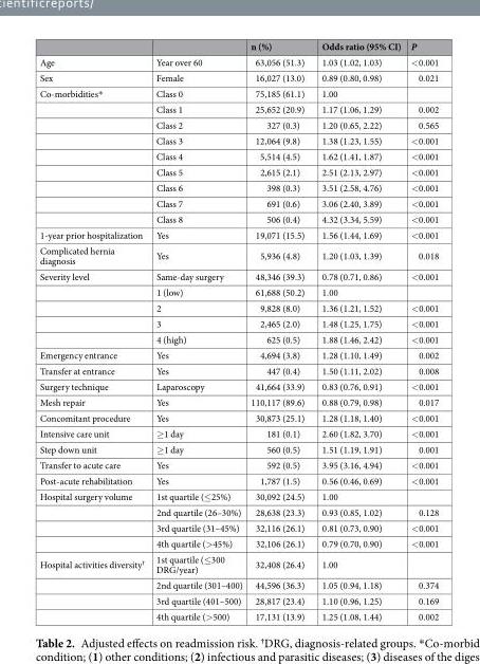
<table><thead><tr><td></td><td></td><td>n (%)</td><td>Odds ratio (95% CI)</td><td>P</td></tr></thead><tbody><tr><td>Age</td><td>Year over 60</td><td>63,056 (51.3)</td><td>1.03 (1.02, 1.03)</td><td>&lt;0.001</td></tr><tr><td>Sex</td><td>Female</td><td>16,027 (13.0)</td><td>0.89 (0.80, 0.98)</td><td>0.021</td></tr><tr><td rowspan="9">Co-morbidities*</td><td>Class 0</td><td>75,185 (61.1)</td><td>1.00</td><td></td></tr><tr><td>Class 1</td><td>25,652 (20.9)</td><td>1.17 (1.06, 1.29)</td><td>0.002</td></tr><tr><td>Class 2</td><td>327 (0.3)</td><td>1.20 (0.65, 2.22)</td><td>0.565</td></tr><tr><td>Class 3</td><td>12,064 (9.8)</td><td>1.38 (1.23, 1.55)</td><td>&lt;0.001</td></tr><tr><td>Class 4</td><td>5,514 (4.5)</td><td>1.62 (1.41, 1.87)</td><td>&lt;0.001</td></tr><tr><td>Class 5</td><td>2,615 (2.1)</td><td>2.51 (2.13, 2.97)</td><td>&lt;0.001</td></tr><tr><td>Class 6</td><td>398 (0.3)</td><td>3.51 (2.58, 4.76)</td><td>&lt;0.001</td></tr><tr><td>Class 7</td><td>691 (0.6)</td><td>3.06 (2.40, 3.89)</td><td>&lt;0.001</td></tr><tr><td>Class 8</td><td>506 (0.4)</td><td>4.32 (3.34, 5.59)</td><td>&lt;0.001</td></tr><tr><td>1-year prior hospitalization</td><td>Yes</td><td>19,071 (15.5)</td><td>1.56 (1.44, 1.69)</td><td>&lt;0.001</td></tr><tr><td>Complicated hernia diagnosis</td><td>Yes</td><td>5,936 (4.8)</td><td>1.20 (1.03, 1.39)</td><td>0.018</td></tr><tr><td rowspan="5">Severity level</td><td>Same-day surgery</td><td>48,346 (39.3)</td><td>0.78 (0.71, 0.86)</td><td>&lt;0.001</td></tr><tr><td>1 (low)</td><td>61,688 (50.2)</td><td>1.00</td><td></td></tr><tr><td>2</td><td>9,828 (8.0)</td><td>1.36 (1.21, 1.52)</td><td>&lt;0.001</td></tr><tr><td>3</td><td>2,465 (2.0)</td><td>1.48 (1.25, 1.75)</td><td>&lt;0.001</td></tr><tr><td>4 (high)</td><td>625 (0.5)</td><td>1.88 (1.46, 2.42)</td><td>&lt;0.001</td></tr><tr><td>Emergency entrance</td><td>Yes</td><td>4,694 (3.8)</td><td>1.28 (1.10, 1.49)</td><td>0.002</td></tr><tr><td>Transfer at entrance</td><td>Yes</td><td>447 (0.4)</td><td>1.50 (1.11, 2.02)</td><td>0.008</td></tr><tr><td>Surgery technique</td><td>Laparoscopy</td><td>41,664 (33.9)</td><td>0.83 (0.76, 0.91)</td><td>&lt;0.001</td></tr><tr><td>Mesh repair</td><td>Yes</td><td>110,117 (89.6)</td><td>0.88 (0.79, 0.98)</td><td>0.017</td></tr><tr><td>Concomitant procedure</td><td>Yes</td><td>30,873 (25.1)</td><td>1.28 (1.18, 1.40)</td><td>&lt;0.001</td></tr><tr><td>Intensive care unit</td><td>≥1 day</td><td>181 (0.1)</td><td>2.60 (1.82, 3.70)</td><td>&lt;0.001</td></tr><tr><td>Step down unit</td><td>≥1 day</td><td>560 (0.5)</td><td>1.51 (1.19, 1.91)</td><td>0.001</td></tr><tr><td>Transfer to acute care</td><td>Yes</td><td>592 (0.5)</td><td>3.95 (3.16, 4.94)</td><td>&lt;0.001</td></tr><tr><td>Post-acute rehabilitation</td><td>Yes</td><td>1,787 (1.5)</td><td>0.56 (0.46, 0.69)</td><td>&lt;0.001</td></tr><tr><td rowspan="4">Hospital surgery volume</td><td>1st quartile (≤25%)</td><td>30,092 (24.5)</td><td>1.00</td><td></td></tr><tr><td>2nd quartile (26–30%)</td><td>28,638 (23.3)</td><td>0.93 (0.85, 1.02)</td><td>0.128</td></tr><tr><td>3rd quartile (31–45%)</td><td>32,116 (26.1)</td><td>0.81 (0.73, 0.90)</td><td>&lt;0.001</td></tr><tr><td>4th quartile (&gt;45%)</td><td>32,106 (26.1)</td><td>0.79 (0.70, 0.90)</td><td>&lt;0.001</td></tr><tr><td rowspan="4">Hospital activities diversity<sup>†</sup></td><td>1st quartile (≤300 DRG/year)</td><td>32,408 (26.4)</td><td>1.00</td><td></td></tr><tr><td>2nd quartile (301–400)</td><td>44,596 (36.3)</td><td>1.05 (0.94, 1.18)</td><td>0.374</td></tr><tr><td>3rd quartile (401–500)</td><td>28,817 (23.4)</td><td>1.10 (0.96, 1.25)</td><td>0.169</td></tr><tr><td>4th quartile (&gt;500)</td><td>17,131 (13.9)</td><td>1.25 (1.08, 1.44)</td><td>0.002</td></tr></tbody></table>